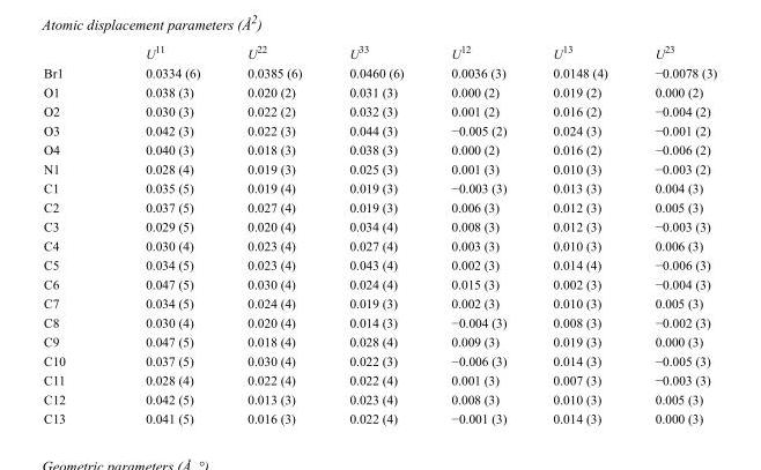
<table><thead><tr><td></td><td>U<sup>11</sup></td><td>U<sup>22</sup></td><td>U<sup>33</sup></td><td>U<sup>12</sup></td><td>U<sup>13</sup></td><td>U<sup>23</sup></td></tr></thead><tbody><tr><td>Br1</td><td>0.0334 (6)</td><td>0.0385 (6)</td><td>0.0460 (6)</td><td>0.0036 (3)</td><td>0.0148 (4)</td><td>−0.0078 (3)</td></tr><tr><td>O1</td><td>0.038 (3)</td><td>0.020 (2)</td><td>0.031 (3)</td><td>0.000 (2)</td><td>0.019 (2)</td><td>0.000 (2)</td></tr><tr><td>O2</td><td>0.030 (3)</td><td>0.022 (2)</td><td>0.032 (3)</td><td>0.001 (2)</td><td>0.016 (2)</td><td>−0.004 (2)</td></tr><tr><td>O3</td><td>0.042 (3)</td><td>0.022 (3)</td><td>0.044 (3)</td><td>−0.005 (2)</td><td>0.024 (3)</td><td>−0.001 (2)</td></tr><tr><td>O4</td><td>0.040 (3)</td><td>0.018 (3)</td><td>0.038 (3)</td><td>0.000 (2)</td><td>0.016 (2)</td><td>−0.006 (2)</td></tr><tr><td>N1</td><td>0.028 (4)</td><td>0.019 (3)</td><td>0.025 (3)</td><td>0.001 (3)</td><td>0.010 (3)</td><td>−0.003 (2)</td></tr><tr><td>C1</td><td>0.035 (5)</td><td>0.019 (4)</td><td>0.019 (3)</td><td>−0.003 (3)</td><td>0.013 (3)</td><td>0.004 (3)</td></tr><tr><td>C2</td><td>0.037 (5)</td><td>0.027 (4)</td><td>0.019 (3)</td><td>0.006 (3)</td><td>0.012 (3)</td><td>0.005 (3)</td></tr><tr><td>C3</td><td>0.029 (5)</td><td>0.020 (4)</td><td>0.034 (4)</td><td>0.008 (3)</td><td>0.012 (3)</td><td>−0.003 (3)</td></tr><tr><td>C4</td><td>0.030 (4)</td><td>0.023 (4)</td><td>0.027 (4)</td><td>0.003 (3)</td><td>0.010 (3)</td><td>0.006 (3)</td></tr><tr><td>C5</td><td>0.034 (5)</td><td>0.023 (4)</td><td>0.043 (4)</td><td>0.002 (3)</td><td>0.014 (4)</td><td>−0.006 (3)</td></tr><tr><td>C6</td><td>0.047 (5)</td><td>0.030 (4)</td><td>0.024 (4)</td><td>0.015 (3)</td><td>0.002 (3)</td><td>−0.004 (3)</td></tr><tr><td>C7</td><td>0.034 (5)</td><td>0.024 (4)</td><td>0.019 (3)</td><td>0.002 (3)</td><td>0.010 (3)</td><td>0.005 (3)</td></tr><tr><td>C8</td><td>0.030 (4)</td><td>0.020 (4)</td><td>0.014 (3)</td><td>−0.004 (3)</td><td>0.008 (3)</td><td>−0.002 (3)</td></tr><tr><td>C9</td><td>0.047 (5)</td><td>0.018 (4)</td><td>0.028 (4)</td><td>0.009 (3)</td><td>0.019 (3)</td><td>0.000 (3)</td></tr><tr><td>C10</td><td>0.037 (5)</td><td>0.030 (4)</td><td>0.022 (3)</td><td>−0.006 (3)</td><td>0.014 (3)</td><td>−0.005 (3)</td></tr><tr><td>C11</td><td>0.028 (4)</td><td>0.022 (4)</td><td>0.022 (4)</td><td>0.001 (3)</td><td>0.007 (3)</td><td>−0.003 (3)</td></tr><tr><td>C12</td><td>0.042 (5)</td><td>0.013 (3)</td><td>0.023 (4)</td><td>0.008 (3)</td><td>0.010 (3)</td><td>0.005 (3)</td></tr><tr><td>C13</td><td>0.041 (5)</td><td>0.016 (3)</td><td>0.022 (4)</td><td>−0.001 (3)</td><td>0.014 (3)</td><td>0.000 (3)</td></tr></tbody></table>